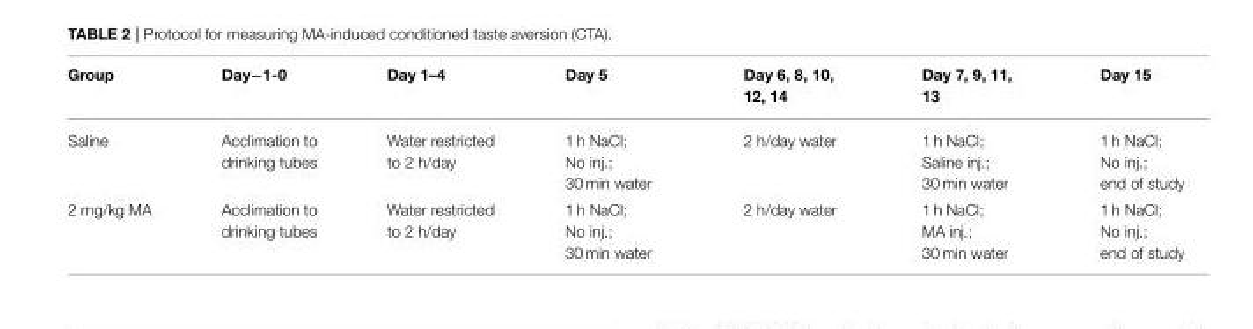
<table><thead><tr><td>Group</td><td>Day−1-0</td><td>Day 1–4</td><td>Day 5</td><td>Day 6, 8, 10, 12, 14</td><td>Day 7, 9, 11, 13</td><td>Day 15</td></tr></thead><tbody><tr><td>Saline</td><td>Acclimation to drinking tubes</td><td>Water restricted to 2 h/day</td><td>1 h NaCl; No inj.; 30 min water</td><td>2 h/day water</td><td>1 h NaCl; Saline inj.; 30 min water</td><td>1 h NaCl; No inj.; end of study</td></tr><tr><td>2 mg/kg MA</td><td>Acclimation to drinking tubes</td><td>Water restricted to 2 h/day</td><td>1 h NaCl; No inj.; 30 min water</td><td>2 h/day water</td><td>1 h NaCl; MA inj.; 30 min water</td><td>1 h NaCl; No inj.; end of study</td></tr></tbody></table>